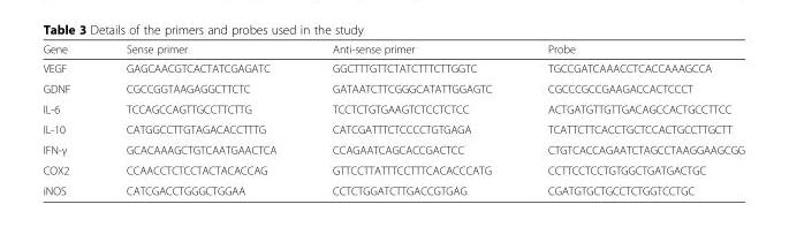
<table><thead><tr><td>Gene</td><td>Sense primer</td><td>Anti-sense primer</td><td>Probe</td></tr></thead><tbody><tr><td>VEGF</td><td>GAGCAACGTCACTATCGAGATC</td><td>GGCTTTGTTCTATCTTTCTTGGTC</td><td>TGCCGATCAAACCTCACCAAAGCCA</td></tr><tr><td>GDNF</td><td>CGCCGGTAAGAGGCTTCTC</td><td>GATAATCTTCGGGCATATTGGAGTC</td><td>CGCCCGCCGAAGACCACTCCCT</td></tr><tr><td>IL-6</td><td>TCCAGCCAGTTGCCTTCTTG</td><td>TCCTCTGTGAAGTCTCCTCTCC</td><td>ACTGATGTTGTTGACAGCCACTGCCTTCC</td></tr><tr><td>IL-10</td><td>CATGGCCTTGTAGACACCTTTG</td><td>CATCGATTTCTCCCCTGTGAGA</td><td>TCATTCTTCACCTGCTCCACTGCCTTGCTT</td></tr><tr><td>IFN-γ</td><td>GCACAAAGCTGTCAATGAACTCA</td><td>CCAGAATCAGCACCGACTCC</td><td>CTGTCACCAGAATCTAGCCTAAGGAAGCGG</td></tr><tr><td>COX2</td><td>CCAACCTCTCCTACTACACCAG</td><td>GTTCCTTATTTCCTTTCACACCCATG</td><td>CCTTCCTCCTGTGGCTGATGACTGC</td></tr><tr><td>iNOS</td><td>CATCGACCTGGGCTGGAA</td><td>CCTCTGGATCTTGACCGTGAG</td><td>CGATGTGCTGCCTCTGGTCCTGC</td></tr></tbody></table>